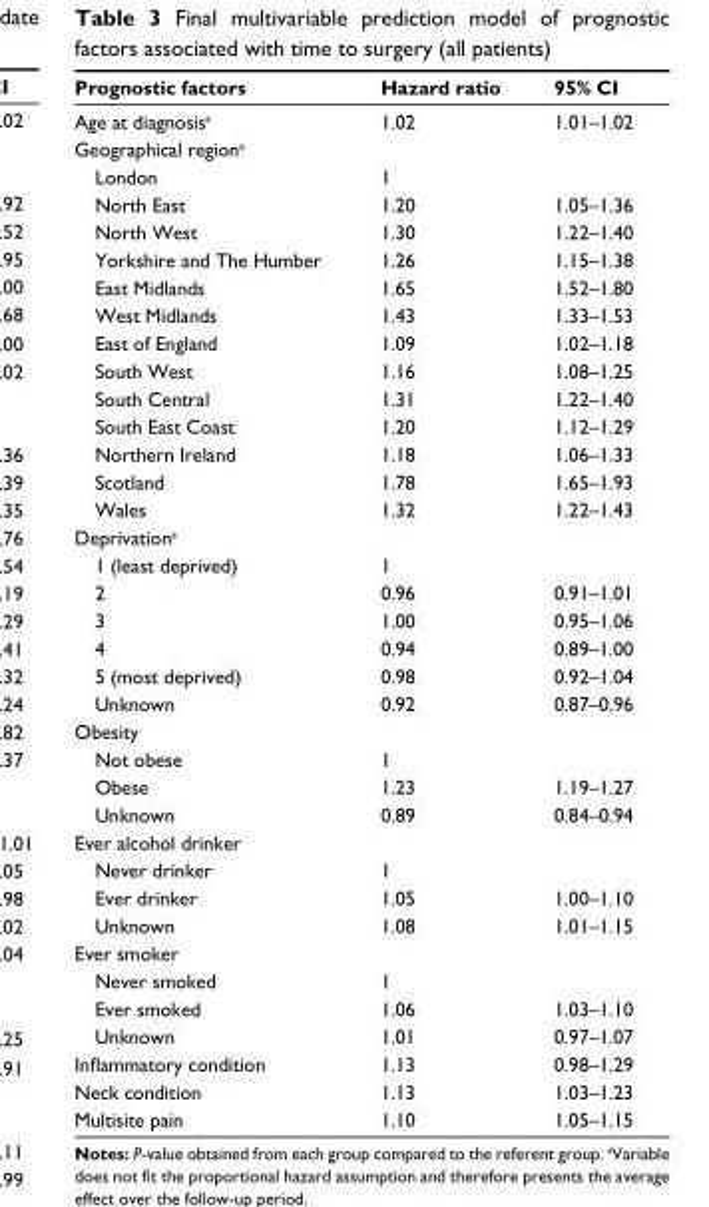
<table><thead><tr><td>Prognostic factors</td><td>Hazard ratio</td><td>95% CI</td></tr></thead><tbody><tr><td>Age at diagnosis<sup>a</sup></td><td>1.02</td><td>1.01–1.02</td></tr><tr><td colspan="3">Geographical region<sup>a</sup></td></tr><tr><td>London</td><td>1</td><td></td></tr><tr><td>North East</td><td>1.20</td><td>1.05–1.36</td></tr><tr><td>North West</td><td>1.30</td><td>1.22–1.40</td></tr><tr><td>Yorkshire and The Humber</td><td>1.26</td><td>1.15–1.38</td></tr><tr><td>East Midlands</td><td>1.65</td><td>1.52–1.80</td></tr><tr><td>West Midlands</td><td>1.43</td><td>1.33–1.53</td></tr><tr><td>East of England</td><td>1.09</td><td>1.02–1.18</td></tr><tr><td>South West</td><td>1.16</td><td>1.08–1.25</td></tr><tr><td>South Central</td><td>1.31</td><td>1.22–1.40</td></tr><tr><td>South East Coast</td><td>1.20</td><td>1.12–1.29</td></tr><tr><td>Northern Ireland</td><td>1.18</td><td>1.06–1.33</td></tr><tr><td>Scotland</td><td>1.78</td><td>1.65–1.93</td></tr><tr><td>Wales</td><td>1.32</td><td>1.22–1.43</td></tr><tr><td colspan="3">Deprivation<sup>a</sup></td></tr><tr><td>1 (least deprived)</td><td>1</td><td></td></tr><tr><td>2</td><td>0.96</td><td>0.91–1.01</td></tr><tr><td>3</td><td>1.00</td><td>0.95–1.06</td></tr><tr><td>4</td><td>0.94</td><td>0.89–1.00</td></tr><tr><td>5 (most deprived)</td><td>0.98</td><td>0.92–1.04</td></tr><tr><td>Unknown</td><td>0.92</td><td>0.87–0.96</td></tr><tr><td colspan="3">Obesity</td></tr><tr><td>Not obese</td><td>1</td><td></td></tr><tr><td>Obese</td><td>1.23</td><td>1.19–1.27</td></tr><tr><td>Unknown</td><td>0.89</td><td>0.84–0.94</td></tr><tr><td colspan="3">Ever alcohol drinker</td></tr><tr><td>Never drinker</td><td>1</td><td></td></tr><tr><td>Ever drinker</td><td>1.05</td><td>1.00–1.10</td></tr><tr><td>Unknown</td><td>1.08</td><td>1.01–1.15</td></tr><tr><td colspan="3">Ever smoker</td></tr><tr><td>Never smoked</td><td>1</td><td></td></tr><tr><td>Ever smoked</td><td>1.06</td><td>1.03–1.10</td></tr><tr><td>Unknown</td><td>1.01</td><td>0.97–1.07</td></tr><tr><td>Inflammatory condition</td><td>1.13</td><td>0.98–1.29</td></tr><tr><td>Neck condition</td><td>1.13</td><td>1.03–1.23</td></tr><tr><td>Multisite pain</td><td>1.10</td><td>1.05–1.15</td></tr></tbody></table>